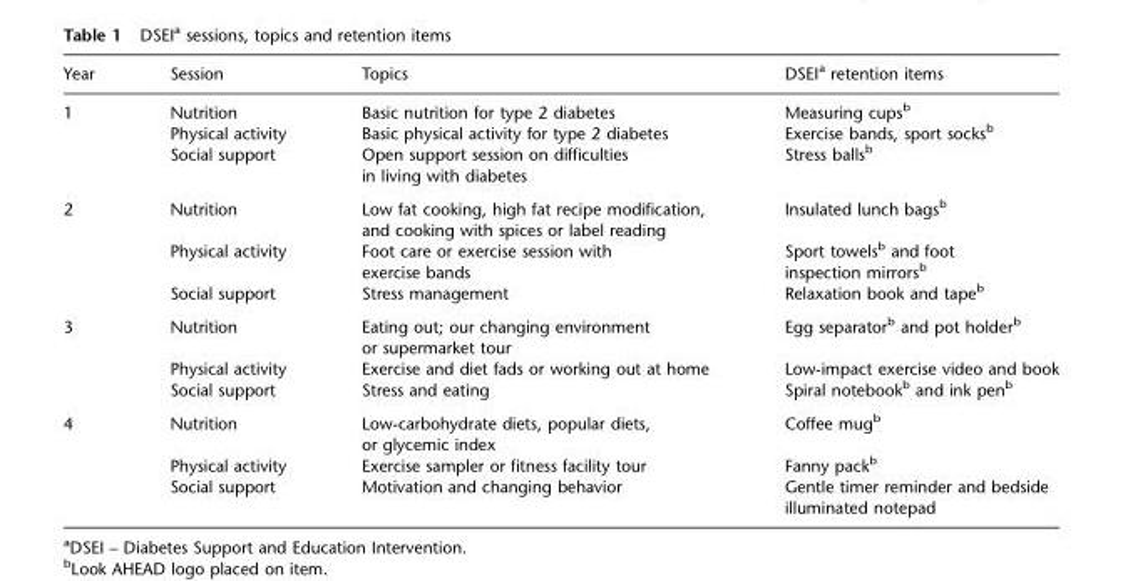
<table><thead><tr><td>Year</td><td>Session</td><td>Topics</td><td>DSEI<sup>a</sup> retention items</td></tr></thead><tbody><tr><td rowspan="3">1</td><td>Nutrition</td><td>Basic nutrition for type 2 diabetes</td><td>Measuring cups<sup>b</sup></td></tr><tr><td>Physical activity</td><td>Basic physical activity for type 2 diabetes</td><td>Exercise bands, sport socks<sup>b</sup></td></tr><tr><td>Social support</td><td>Open support session on difficulties in living with diabetes</td><td>Stress balls<sup>b</sup></td></tr><tr><td rowspan="3">2</td><td>Nutrition</td><td>Low fat cooking, high fat recipe modification, and cooking with spices or label reading</td><td>Insulated lunch bags<sup>b</sup></td></tr><tr><td>Physical activity</td><td>Foot care or exercise session with exercise bands</td><td>Sport towels<sup>b</sup> and foot inspection mirrors<sup>b</sup></td></tr><tr><td>Social support</td><td>Stress management</td><td>Relaxation book and tape<sup>b</sup></td></tr><tr><td rowspan="3">3</td><td>Nutrition</td><td>Eating out; our changing environment or supermarket tour</td><td>Egg separator<sup>b</sup> and pot holder<sup>b</sup></td></tr><tr><td>Physical activity</td><td>Exercise and diet fads or working out at home</td><td>Low-impact exercise video and book</td></tr><tr><td>Social support</td><td>Stress and eating</td><td>Spiral notebook<sup>b</sup> and ink pen<sup>b</sup></td></tr><tr><td rowspan="3">4</td><td>Nutrition</td><td>Low-carbohydrate diets, popular diets, or glycemic index</td><td>Coffee mug<sup>b</sup></td></tr><tr><td>Physical activity</td><td>Exercise sampler or fitness facility tour</td><td>Fanny pack<sup>b</sup></td></tr><tr><td>Social support</td><td>Motivation and changing behavior</td><td>Gentle timer reminder and bedside illuminated notepad</td></tr></tbody></table>